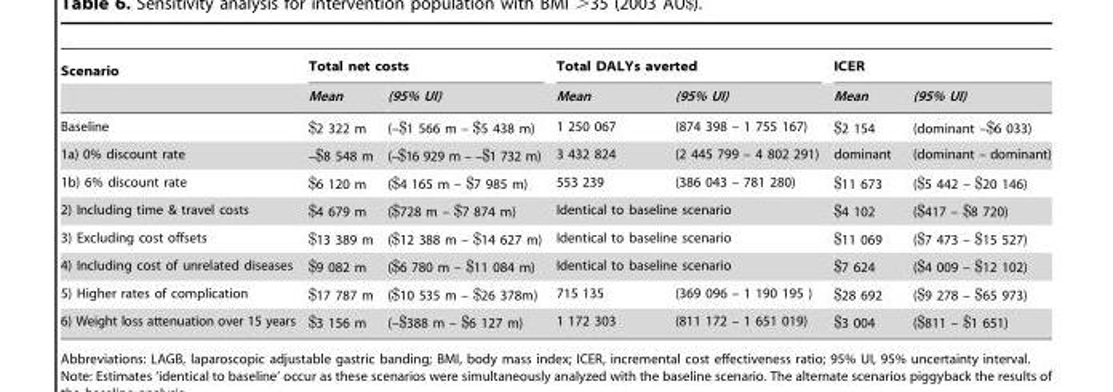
<table><thead><tr><td rowspan="2">Scenario</td><td colspan="2">Total net costs</td><td colspan="2">Total DALYs averted</td><td colspan="2">ICER</td></tr><tr><td>Mean</td><td>(95% UI)</td><td>Mean</td><td>(95% UI)</td><td>Mean</td><td>(95% UI)</td></tr></thead><tbody><tr><td>Baseline</td><td>$2 322 m</td><td>(–$1 566 m – $5 438 m)</td><td>1 250 067</td><td>(874 398 – 1 755 167)</td><td>$2 154</td><td>(dominant –$6 033)</td></tr><tr><td>1a) 0% discount rate</td><td>–$8 548 m</td><td>(–$16 929 m – –$1 732 m)</td><td>3 432 824</td><td>(2 445 799 – 4 802 291)</td><td>dominant</td><td>(dominant – dominant)</td></tr><tr><td>1b) 6% discount rate</td><td>$6 120 m</td><td>($4 165 m – $7 985 m)</td><td>553 239</td><td>(386 043 – 781 280)</td><td>$11 673</td><td>($5 442 – $20 146)</td></tr><tr><td>2) Including time &amp; travel costs</td><td>$4 679 m</td><td>($728 m – $7 874 m)</td><td colspan="2">Identical to baseline scenario</td><td>$4 102</td><td>($417 – $8 720)</td></tr><tr><td>3) Excluding cost offsets</td><td>$13 389 m</td><td>($12 388 m – $14 627 m)</td><td colspan="2">Identical to baseline scenario</td><td>$11 069</td><td>($7 473 – $15 527)</td></tr><tr><td>4) Including cost of unrelated diseases</td><td>$9 082 m</td><td>($6 780 m – $11 084 m)</td><td colspan="2">Identical to baseline scenario</td><td>$7 624</td><td>($4 009 – $12 102)</td></tr><tr><td>5) Higher rates of complication</td><td>$17 787 m</td><td>($10 535 m – $26 378m)</td><td>715 135</td><td>(369 096 – 1 190 195 )</td><td>$28 692</td><td>($9 278 – $65 973)</td></tr><tr><td>6) Weight loss attenuation over 15 years</td><td>$3 156 m</td><td>(–$388 m – $6 127 m)</td><td>1 172 303</td><td>(811 172 – 1 651 019)</td><td>$3 004</td><td>($811 – $1 651)</td></tr></tbody></table>